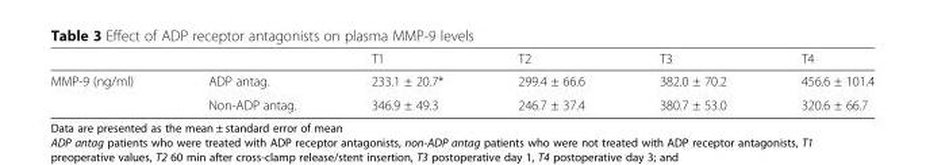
<table><thead><tr><td></td><td></td><td>T1</td><td>T2</td><td>T3</td><td>T4</td></tr></thead><tbody><tr><td rowspan="2">MMP-9 (ng/ml)</td><td>ADP antag.</td><td>233.1 ± 20.7*</td><td>299.4 ± 66.6</td><td>382.0 ± 70.2</td><td>456.6 ± 101.4</td></tr><tr><td>Non-ADP antag.</td><td>346.9 ± 49.3</td><td>246.7 ± 37.4</td><td>380.7 ± 53.0</td><td>320.6 ± 66.7</td></tr></tbody></table>